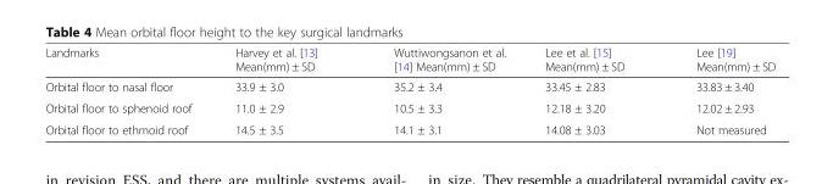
<table><thead><tr><td>Landmarks</td><td>Harvey et al. [13] Mean(mm) ± SD</td><td>Wuttiwongsanon et al. [14] Mean(mm) ± SD</td><td>Lee et al. [15] Mean(mm) ± SD</td><td>Lee [19] Mean(mm) ± SD</td></tr></thead><tbody><tr><td>Orbital floor to nasal floor</td><td>33.9 ± 3.0</td><td>35.2 ± 3.4</td><td>33.45 ± 2.83</td><td>33.83 ± 3.40</td></tr><tr><td>Orbital floor to sphenoid roof</td><td>11.0 ± 2.9</td><td>10.5 ± 3.3</td><td>12.18 ± 3.20</td><td>12.02 ± 2.93</td></tr><tr><td>Orbital floor to ethmoid roof</td><td>14.5 ± 3.5</td><td>14.1 ± 3.1</td><td>14.08 ± 3.03</td><td>Not measured</td></tr></tbody></table>